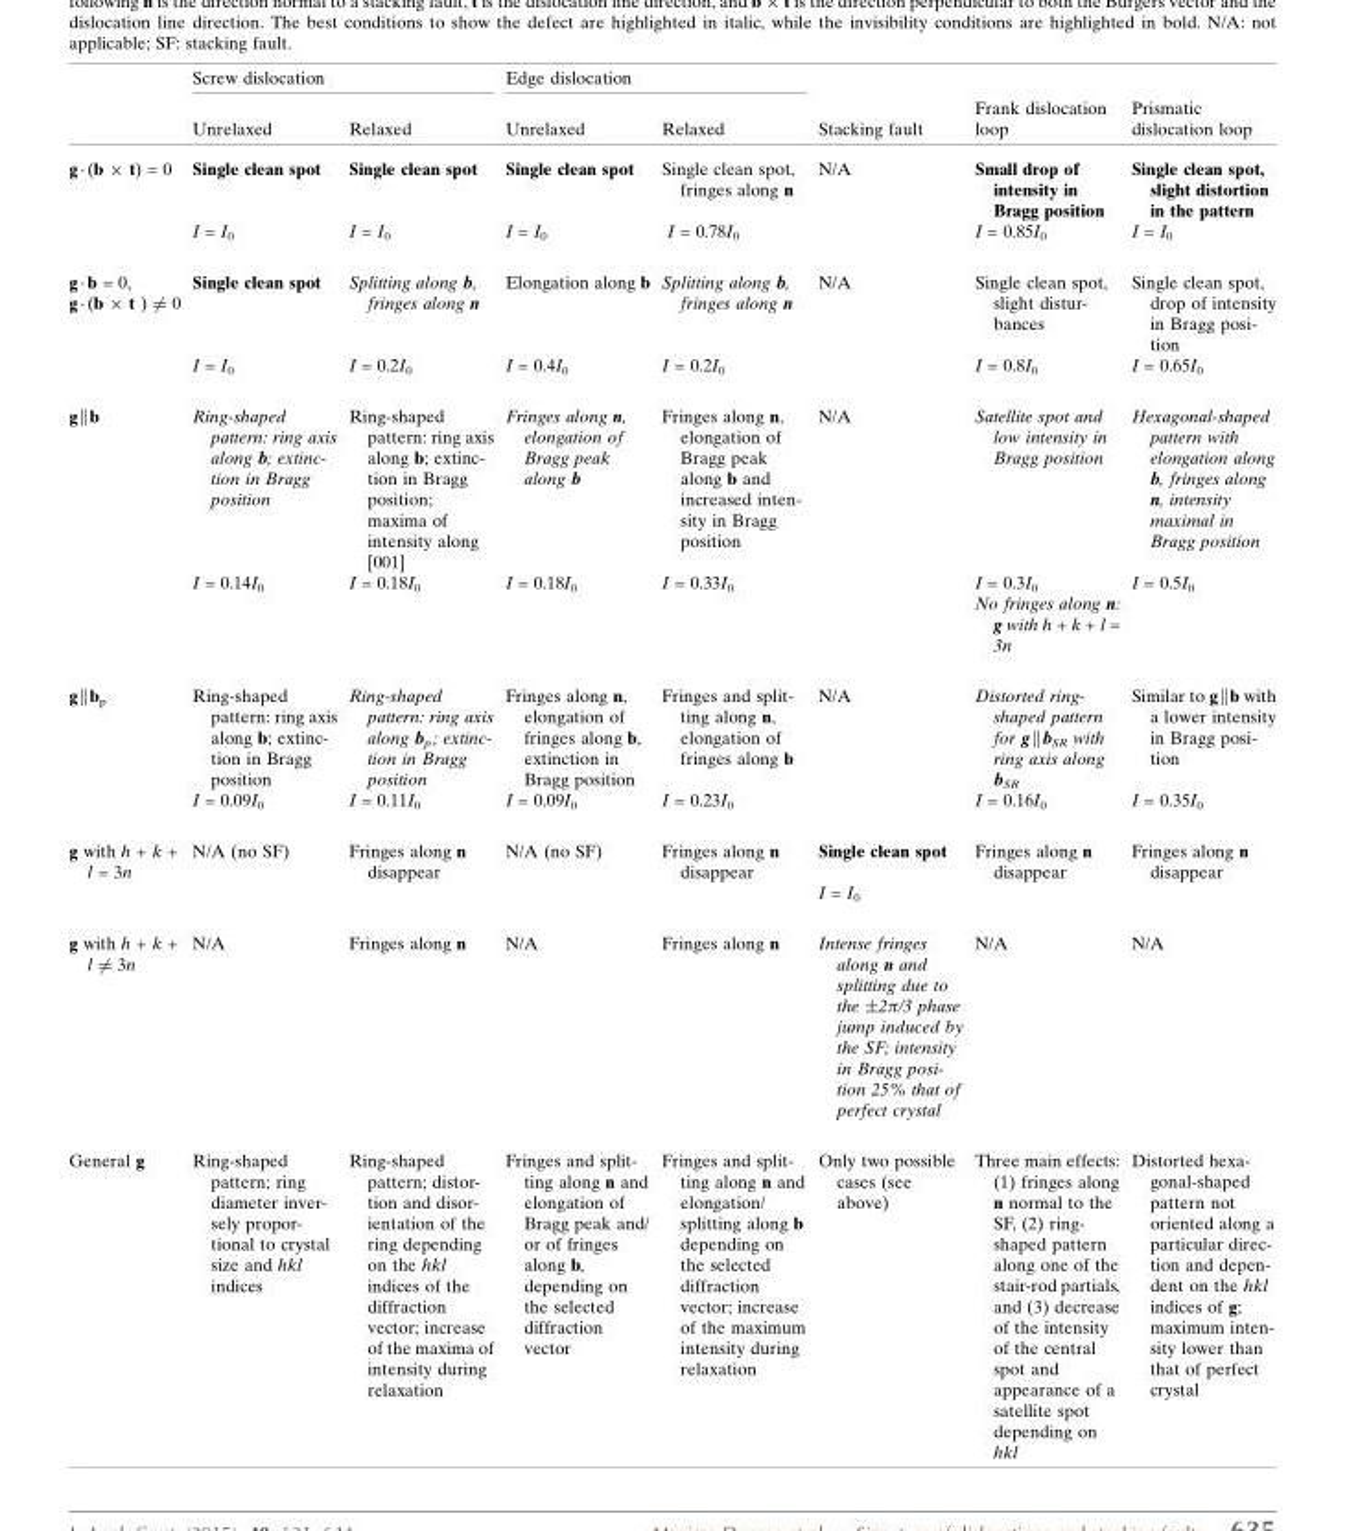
<table><thead><tr><td rowspan="2"></td><td colspan="2">Screw dislocation</td><td colspan="2">Edge dislocation</td><td rowspan="2">Stacking fault</td><td rowspan="2">Frank dislocation loop</td><td rowspan="2">Prismatic dislocation loop</td></tr><tr><td>Unrelaxed</td><td>Relaxed</td><td>Unrelaxed</td><td>Relaxed</td></tr></thead><tbody><tr><td rowspan="2">g�(b � t) = 0</td><td>Single clean spot</td><td>Single clean spot</td><td>Single clean spot</td><td>Single clean spot, fringes along n</td><td>N/A</td><td>Small drop of intensity in Bragg position</td><td>Single clean spot, slight distortion in the pattern</td></tr><tr><td>I = I0</td><td>I = I0</td><td>I = I0</td><td>I = 0.78I0</td><td></td><td>I = 0.85I0</td><td>I = I0</td></tr><tr><td rowspan="2">g�b = 0, g�(b � t ) 6¼ 0</td><td>Single clean spot</td><td>Splitting along b, fringes along n</td><td>Elongation along b</td><td>Splitting along b, fringes along n</td><td>N/A</td><td>Single clean spot, slight distur- bances</td><td>Single clean spot, drop of intensity in Bragg posi- tion</td></tr><tr><td>I = I0</td><td>I = 0.2I0</td><td>I = 0.4I0</td><td>I = 0.2I0</td><td></td><td>I = 0.8I0</td><td>I = 0.65I0</td></tr><tr><td rowspan="3">g||b</td><td>Ring-shaped pattern: ring axis along b; extinc- tion in Bragg position</td><td>Ring-shaped pattern: ring axis along b; extinc- tion in Bragg position; maxima of intensity along [001]</td><td>Fringes along n, elongation of Bragg peak along b</td><td>Fringes along n, elongation of Bragg peak along b and increased inten- sity in Bragg position</td><td>N/A</td><td>Satellite spot and low intensity in Bragg position</td><td>Hexagonal-shaped pattern with elongation along b, fringes along n, intensity maximal in Bragg position</td></tr><tr><td>I = 0.14I0</td><td>I = 0.18I0</td><td>I = 0.18I0</td><td>I = 0.33I0</td><td></td><td>I = 0.3I0</td><td>I = 0.5I0</td></tr><tr><td></td><td></td><td></td><td></td><td></td><td>No fringes along n: g with h + k + l = 3n</td><td></td></tr><tr><td rowspan="2">g||bp</td><td>Ring-shaped pattern: ring axis along b; extinc- tion in Bragg position</td><td>Ring-shaped pattern: ring axis along bp; extinc- tion in Bragg position</td><td>Fringes along n, elongation of fringes along b, extinction in Bragg position</td><td>Fringes and split- ting along n, elongation of fringes along b</td><td>N/A</td><td>Distorted ring- shaped pattern for g||bSR with ring axis along bSR</td><td>Similar to g||b with a lower intensity in Bragg posi- tion</td></tr><tr><td>I = 0.09I0</td><td>I = 0.11I0</td><td>I = 0.09I0</td><td>I = 0.23I0</td><td></td><td>I = 0.16I0</td><td>I = 0.35I0</td></tr><tr><td rowspan="2">g with h + k + l = 3n</td><td>N/A (no SF)</td><td>Fringes along n disappear</td><td>N/A (no SF)</td><td>Fringes along n disappear</td><td>Single clean spot</td><td>Fringes along n disappear</td><td>Fringes along n disappear</td></tr><tr><td></td><td></td><td></td><td></td><td>I = I0</td><td></td><td></td></tr><tr><td>g with h + k + l 6¼ 3n</td><td>N/A</td><td>Fringes along n</td><td>N/A</td><td>Fringes along n</td><td>Intense fringes along n and splitting due to the �2�/3 phase jump induced by the SF; intensity in Bragg posi- tion 25% that of perfect crystal</td><td>N/A</td><td>N/A</td></tr><tr><td>General g</td><td>Ring-shaped pattern; ring diameter inver- sely propor- tional to crystal size and hkl indices</td><td>Ring-shaped pattern; distor- tion and disor- ientation of the ring depending on the hkl indices of the diffraction vector; increase of the maxima of intensity during relaxation</td><td>Fringes and split- ting along n and elongation of Bragg peak and/ or of fringes along b, depending on the selected diffraction vector</td><td>Fringes and split- ting along n and elongation/ splitting along b depending on the selected diffraction vector; increase of the maximum intensity during relaxation</td><td>Only two possible cases (see above)</td><td>Three main effects: (1) fringes along n normal to the SF, (2) ring- shaped pattern along one of the stair-rod partials, and (3) decrease of the intensity of the central spot and appearance of a satellite spot depending on hkl</td><td>Distorted hexa- gonal-shaped pattern not oriented along a particular direc- tion and depen- dent on the hkl indices of g; maximum inten- sity lower than that of perfect crystal</td></tr></tbody></table>